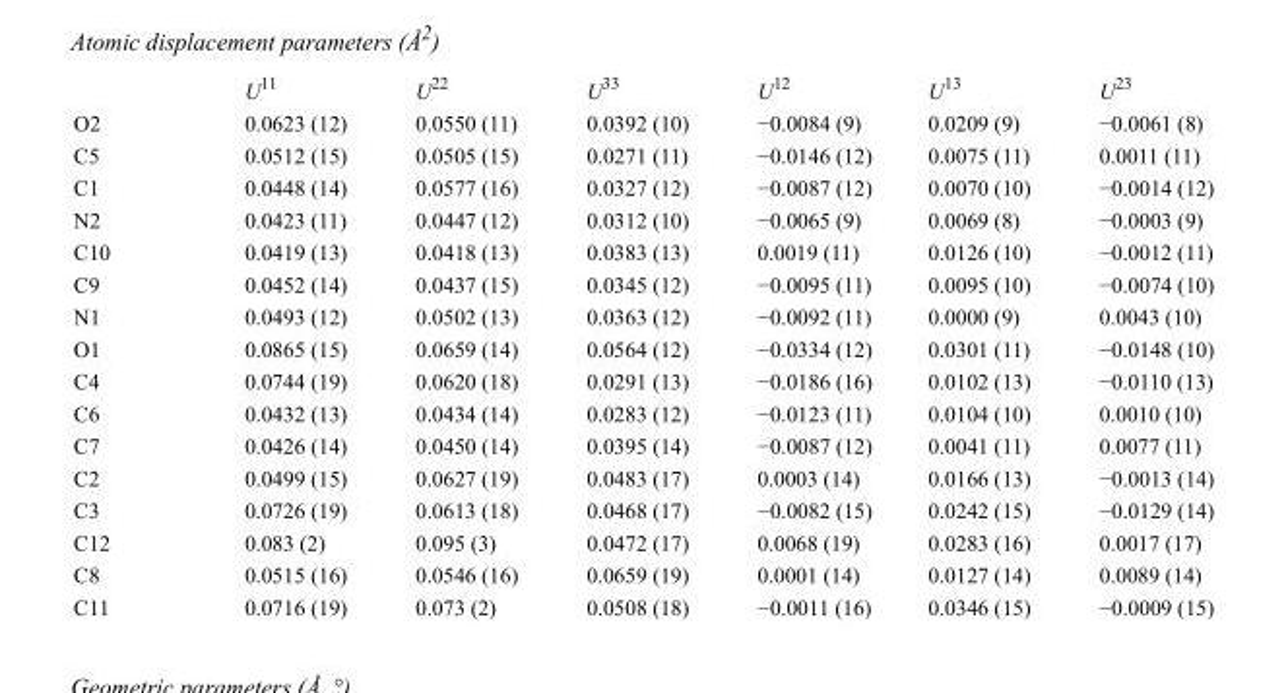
<table><thead><tr><td></td><td>U<sup>11</sup></td><td>U<sup>22</sup></td><td>U<sup>33</sup></td><td>U<sup>12</sup></td><td>U<sup>13</sup></td><td>U<sup>23</sup></td></tr></thead><tbody><tr><td>O2</td><td>0.0623 (12)</td><td>0.0550 (11)</td><td>0.0392 (10)</td><td>−0.0084 (9)</td><td>0.0209 (9)</td><td>−0.0061 (8)</td></tr><tr><td>C5</td><td>0.0512 (15)</td><td>0.0505 (15)</td><td>0.0271 (11)</td><td>−0.0146 (12)</td><td>0.0075 (11)</td><td>0.0011 (11)</td></tr><tr><td>C1</td><td>0.0448 (14)</td><td>0.0577 (16)</td><td>0.0327 (12)</td><td>−0.0087 (12)</td><td>0.0070 (10)</td><td>−0.0014 (12)</td></tr><tr><td>N2</td><td>0.0423 (11)</td><td>0.0447 (12)</td><td>0.0312 (10)</td><td>−0.0065 (9)</td><td>0.0069 (8)</td><td>−0.0003 (9)</td></tr><tr><td>C10</td><td>0.0419 (13)</td><td>0.0418 (13)</td><td>0.0383 (13)</td><td>0.0019 (11)</td><td>0.0126 (10)</td><td>−0.0012 (11)</td></tr><tr><td>C9</td><td>0.0452 (14)</td><td>0.0437 (15)</td><td>0.0345 (12)</td><td>−0.0095 (11)</td><td>0.0095 (10)</td><td>−0.0074 (10)</td></tr><tr><td>N1</td><td>0.0493 (12)</td><td>0.0502 (13)</td><td>0.0363 (12)</td><td>−0.0092 (11)</td><td>0.0000 (9)</td><td>0.0043 (10)</td></tr><tr><td>O1</td><td>0.0865 (15)</td><td>0.0659 (14)</td><td>0.0564 (12)</td><td>−0.0334 (12)</td><td>0.0301 (11)</td><td>−0.0148 (10)</td></tr><tr><td>C4</td><td>0.0744 (19)</td><td>0.0620 (18)</td><td>0.0291 (13)</td><td>−0.0186 (16)</td><td>0.0102 (13)</td><td>−0.0110 (13)</td></tr><tr><td>C6</td><td>0.0432 (13)</td><td>0.0434 (14)</td><td>0.0283 (12)</td><td>−0.0123 (11)</td><td>0.0104 (10)</td><td>0.0010 (10)</td></tr><tr><td>C7</td><td>0.0426 (14)</td><td>0.0450 (14)</td><td>0.0395 (14)</td><td>−0.0087 (12)</td><td>0.0041 (11)</td><td>0.0077 (11)</td></tr><tr><td>C2</td><td>0.0499 (15)</td><td>0.0627 (19)</td><td>0.0483 (17)</td><td>0.0003 (14)</td><td>0.0166 (13)</td><td>−0.0013 (14)</td></tr><tr><td>C3</td><td>0.0726 (19)</td><td>0.0613 (18)</td><td>0.0468 (17)</td><td>−0.0082 (15)</td><td>0.0242 (15)</td><td>−0.0129 (14)</td></tr><tr><td>C12</td><td>0.083 (2)</td><td>0.095 (3)</td><td>0.0472 (17)</td><td>0.0068 (19)</td><td>0.0283 (16)</td><td>0.0017 (17)</td></tr><tr><td>C8</td><td>0.0515 (16)</td><td>0.0546 (16)</td><td>0.0659 (19)</td><td>0.0001 (14)</td><td>0.0127 (14)</td><td>0.0089 (14)</td></tr><tr><td>C11</td><td>0.0716 (19)</td><td>0.073 (2)</td><td>0.0508 (18)</td><td>−0.0011 (16)</td><td>0.0346 (15)</td><td>−0.0009 (15)</td></tr></tbody></table>